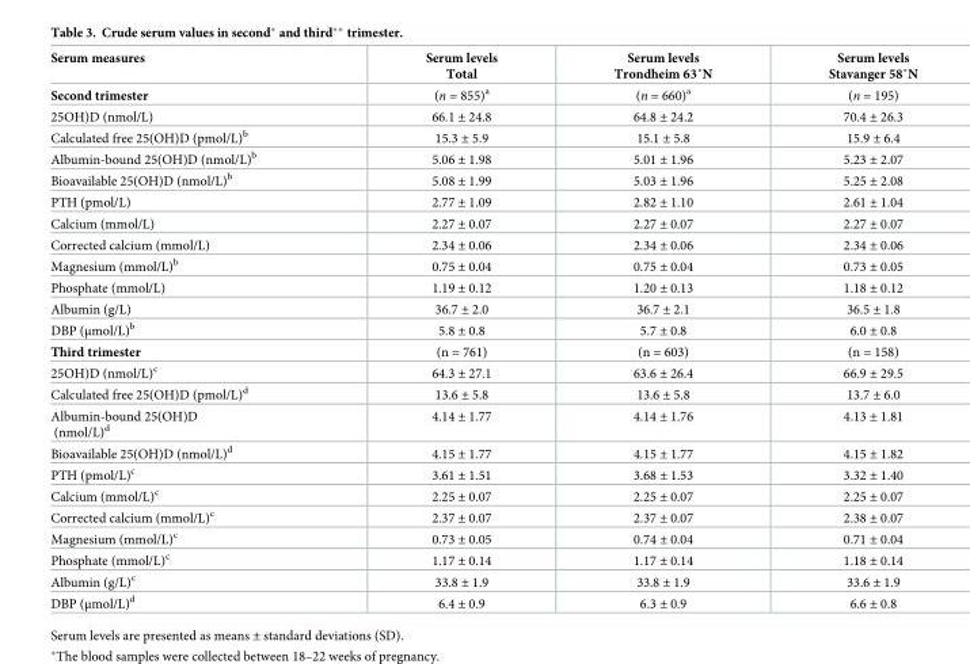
<table><thead><tr><td>Serum measures</td><td>Serum levels Total</td><td>Serum levels Trondheim 63˚N</td><td>Serum levels Stavanger 58˚N</td></tr></thead><tbody><tr><td>Second trimester</td><td>(n = 855)<sup>a</sup></td><td>(n = 660)<sup>a</sup></td><td>(n = 195)</td></tr><tr><td>25OH)D (nmol/L)</td><td>66.1 ± 24.8</td><td>64.8 ± 24.2</td><td>70.4 ± 26.3</td></tr><tr><td>Calculated free 25(OH)D (pmol/L)<sup>b</sup></td><td>15.3 ± 5.9</td><td>15.1 ± 5.8</td><td>15.9 ± 6.4</td></tr><tr><td>Albumin-bound 25(OH)D (nmol/L)<sup>b</sup></td><td>5.06 ± 1.98</td><td>5.01 ± 1.96</td><td>5.23 ± 2.07</td></tr><tr><td>Bioavailable 25(OH)D (nmol/L)<sup>b</sup></td><td>5.08 ± 1.99</td><td>5.03 ± 1.96</td><td>5.25 ± 2.08</td></tr><tr><td>PTH (pmol/L)</td><td>2.77 ± 1.09</td><td>2.82 ± 1.10</td><td>2.61 ± 1.04</td></tr><tr><td>Calcium (mmol/L)</td><td>2.27 ± 0.07</td><td>2.27 ± 0.07</td><td>2.27 ± 0.07</td></tr><tr><td>Corrected calcium (mmol/L)</td><td>2.34 ± 0.06</td><td>2.34 ± 0.06</td><td>2.34 ± 0.06</td></tr><tr><td>Magnesium (mmol/L)<sup>b</sup></td><td>0.75 ± 0.04</td><td>0.75 ± 0.04</td><td>0.73 ± 0.05</td></tr><tr><td>Phosphate (mmol/L)</td><td>1.19 ± 0.12</td><td>1.20 ± 0.13</td><td>1.18 ± 0.12</td></tr><tr><td>Albumin (g/L)</td><td>36.7 ± 2.0</td><td>36.7 ± 2.1</td><td>36.5 ± 1.8</td></tr><tr><td>DBP (μmol/L)<sup>b</sup></td><td>5.8 ± 0.8</td><td>5.7 ± 0.8</td><td>6.0 ± 0.8</td></tr><tr><td>Third trimester</td><td>(n = 761)</td><td>(n = 603)</td><td>(n = 158)</td></tr><tr><td>25OH)D (nmol/L)<sup>c</sup></td><td>64.3 ± 27.1</td><td>63.6 ± 26.4</td><td>66.9 ± 29.5</td></tr><tr><td>Calculated free 25(OH)D (pmol/L)<sup>d</sup></td><td>13.6 ± 5.8</td><td>13.6 ± 5.8</td><td>13.7 ± 6.0</td></tr><tr><td>Albumin-bound 25(OH)D (nmol/L)<sup>d</sup></td><td>4.14 ± 1.77</td><td>4.14 ± 1.76</td><td>4.13 ± 1.81</td></tr><tr><td>Bioavailable 25(OH)D (nmol/L)<sup>d</sup></td><td>4.15 ± 1.77</td><td>4.15 ± 1.77</td><td>4.15 ± 1.82</td></tr><tr><td>PTH (pmol/L)<sup>c</sup></td><td>3.61 ± 1.51</td><td>3.68 ± 1.53</td><td>3.32 ± 1.40</td></tr><tr><td>Calcium (mmol/L)<sup>c</sup></td><td>2.25 ± 0.07</td><td>2.25 ± 0.07</td><td>2.25 ± 0.07</td></tr><tr><td>Corrected calcium (mmol/L)<sup>c</sup></td><td>2.37 ± 0.07</td><td>2.37 ± 0.07</td><td>2.38 ± 0.07</td></tr><tr><td>Magnesium (mmol/L)<sup>c</sup></td><td>0.73 ± 0.05</td><td>0.74 ± 0.04</td><td>0.71 ± 0.04</td></tr><tr><td>Phosphate (mmol/L)<sup>c</sup></td><td>1.17 ± 0.14</td><td>1.17 ± 0.14</td><td>1.18 ± 0.14</td></tr><tr><td>Albumin (g/L)<sup>c</sup></td><td>33.8 ± 1.9</td><td>33.8 ± 1.9</td><td>33.6 ± 1.9</td></tr><tr><td>DBP (μmol/L)<sup>d</sup></td><td>6.4 ± 0.9</td><td>6.3 ± 0.9</td><td>6.6 ± 0.8</td></tr></tbody></table>